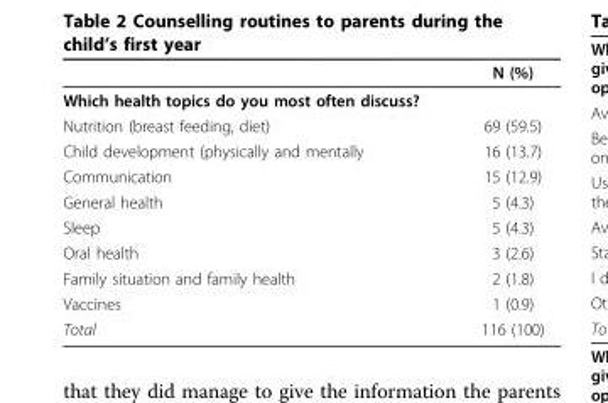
<table><thead><tr><td></td><td>N (%)</td></tr></thead><tbody><tr><td colspan="2">Which health topics do you most often discuss?</td></tr><tr><td>Nutrition (breast feeding, diet)</td><td>69 (59.5)</td></tr><tr><td>Child development (physically and mentally</td><td>16 (13.7)</td></tr><tr><td>Communication</td><td>15 (12.9)</td></tr><tr><td>General health</td><td>5 (4.3)</td></tr><tr><td>Sleep</td><td>5 (4.3)</td></tr><tr><td>Oral health</td><td>3 (2.6)</td></tr><tr><td>Family situation and family health</td><td>2 (1.8)</td></tr><tr><td>Vaccines</td><td>1 (0.9)</td></tr><tr><td>Total</td><td>116 (100)</td></tr></tbody></table>